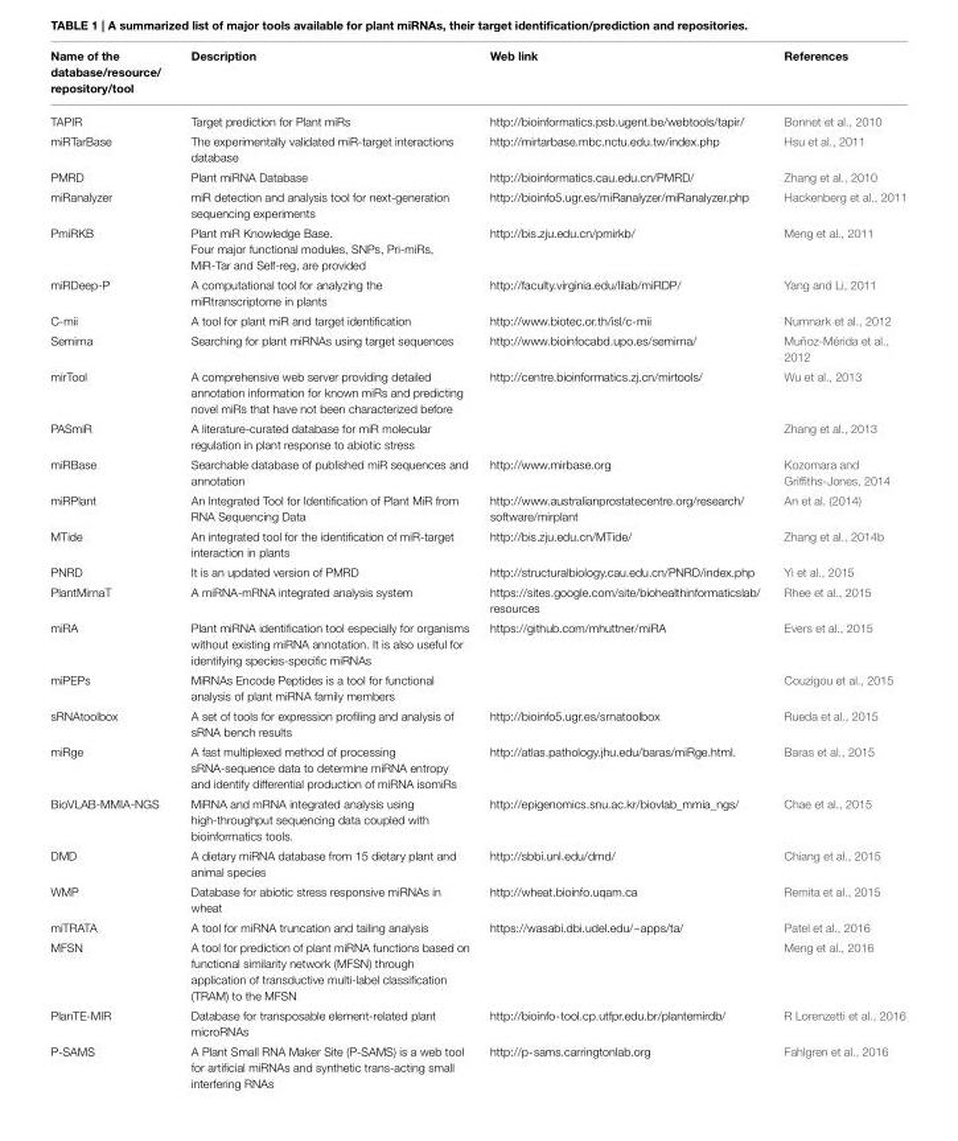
<table><thead><tr><td>Name of the database/resource/ repository/tool</td><td>Description</td><td>Web link</td><td>References</td></tr></thead><tbody><tr><td>TAPIR</td><td>Target prediction for Plant miRs</td><td>http://bioinformatics.psb.ugent.be/webtools/tapir/</td><td>Bonnet et al., 2010</td></tr><tr><td>miRTarBase</td><td>The experimentally validated miR-target interactions database</td><td>http://mirtarbase.mbc.nctu.edu.tw/index.php</td><td>Hsu et al., 2011</td></tr><tr><td>PMRD</td><td>Plant miRNA Database</td><td>http://bioinformatics.cau.edu.cn/PMRD/</td><td>Zhang et al., 2010</td></tr><tr><td>miRanalyzer</td><td>miR detection and analysis tool for next-generation sequencing experiments</td><td>http://bioinfo5.ugr.es/miRanalyzer/miRanalyzer.php</td><td>Hackenberg et al., 2011</td></tr><tr><td>PmiRKB</td><td>Plant miR Knowledge Base. Four major functional modules, SNPs, Pri-miRs, MiR-Tar and Self-reg, are provided</td><td>http://bis.zju.edu.cn/pmirkb/</td><td>Meng et al., 2011</td></tr><tr><td>miRDeep-P</td><td>A computational tool for analyzing the miRtranscriptome in plants</td><td>http://faculty.virginia.edu/lilab/miRDP/</td><td>Yang and Li, 2011</td></tr><tr><td>C-mii</td><td>A tool for plant miR and target identification</td><td>http://www.biotec.or.th/isl/c-mii</td><td>Numnark et al., 2012</td></tr><tr><td>Semirna</td><td>Searching for plant miRNAs using target sequences</td><td>http://www.bioinfocabd.upo.es/semirna/</td><td>Muñoz-Mérida et al., 2012</td></tr><tr><td>mirTool</td><td>A comprehensive web server providing detailed annotation information for known miRs and predicting novel miRs that have not been characterized before</td><td>http://centre.bioinformatics.zj.cn/mirtools/</td><td>Wu et al., 2013</td></tr><tr><td>PASmiR</td><td>A literature-curated database for miR molecular regulation in plant response to abiotic stress</td><td></td><td>Zhang et al., 2013</td></tr><tr><td>miRBase</td><td>Searchable database of published miR sequences and annotation</td><td>http://www.mirbase.org</td><td>Kozomara and Griffiths-Jones, 2014</td></tr><tr><td>miRPlant</td><td>An Integrated Tool for Identification of Plant MiR from RNA Sequencing Data</td><td>http://www.australianprostatecentre.org/research/ software/mirplant</td><td>An et al. (2014)</td></tr><tr><td>MTide</td><td>An integrated tool for the identification of miR-target interaction in plants</td><td>http://bis.zju.edu.cn/MTide/</td><td>Zhang et al., 2014b</td></tr><tr><td>PNRD</td><td>It is an updated version of PMRD</td><td>http://structuralbiology.cau.edu.cn/PNRD/index.php</td><td>Yi et al., 2015</td></tr><tr><td>PlantMirnaT</td><td>A miRNA-mRNA integrated analysis system</td><td>https://sites.google.com/site/biohealthinformaticslab/ resources</td><td>Rhee et al., 2015</td></tr><tr><td>miRA</td><td>Plant miRNA identification tool especially for organisms without existing miRNA annotation. It is also useful for identifying species-specific miRNAs</td><td>https://github.com/mhuttner/miRA</td><td>Evers et al., 2015</td></tr><tr><td>miPEPs</td><td>MiRNAs Encode Peptides is a tool for functional analysis of plant miRNA family members</td><td></td><td>Couzigou et al., 2015</td></tr><tr><td>sRNAtoolbox</td><td>A set of tools for expression profiling and analysis of sRNA bench results</td><td>http://bioinfo5.ugr.es/srnatoolbox</td><td>Rueda et al., 2015</td></tr><tr><td>miRge</td><td>A fast multiplexed method of processing sRNA-sequence data to determine miRNA entropy and identify differential production of miRNA isomiRs</td><td>http://atlas.pathology.jhu.edu/baras/miRge.html.</td><td>Baras et al., 2015</td></tr><tr><td>BioVLAB-MMIA-NGS</td><td>MiRNA and mRNA integrated analysis using high-throughput sequencing data coupled with bioinformatics tools.</td><td>http://epigenomics.snu.ac.kr/biovlab_mmia_ngs/</td><td>Chae et al., 2015</td></tr><tr><td>DMD</td><td>A dietary miRNA database from 15 dietary plant and animal species</td><td>http://sbbi.unl.edu/dmd/</td><td>Chiang et al., 2015</td></tr><tr><td>WMP</td><td>Database for abiotic stress responsive miRNAs in wheat</td><td>http://wheat.bioinfo.uqam.ca</td><td>Remita et al., 2015</td></tr><tr><td>miTRATA</td><td>A tool for miRNA truncation and tailing analysis</td><td>https://wasabi.dbi.udel.edu/~apps/ta/</td><td>Patel et al., 2016</td></tr><tr><td>MFSN</td><td>A tool for prediction of plant miRNA functions based on functional similarity network (MFSN) through application of transductive multi-label classification (TRAM) to the MFSN</td><td></td><td>Meng et al., 2016</td></tr><tr><td>PlanTE-MIR</td><td>Database for transposable element-related plant microRNAs</td><td>http://bioinfo-tool.cp.utfpr.edu.br/plantemirdb/</td><td>R Lorenzetti et al., 2016</td></tr><tr><td>P-SAMS</td><td>A Plant Small RNA Maker Site (P-SAMS) is a web tool for artificial miRNAs and synthetic trans-acting small interfering RNAs</td><td>http://p-sams.carringtonlab.org</td><td>Fahlgren et al., 2016</td></tr></tbody></table>